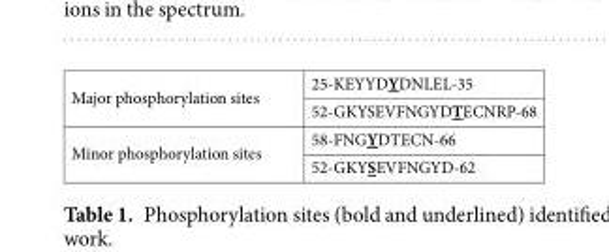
<table><tbody><tr><td rowspan="2">Major phosphorylation sites</td><td>25-KEYYDYDNLEL-35</td></tr><tr><td>52-GKYSEVFNGYDTECNRP-68</td></tr><tr><td rowspan="2">Minor phosphorylation sites</td><td>58-FNGYDTECN-66</td></tr><tr><td>52-GKYSEVFNGYD-62</td></tr></tbody></table>